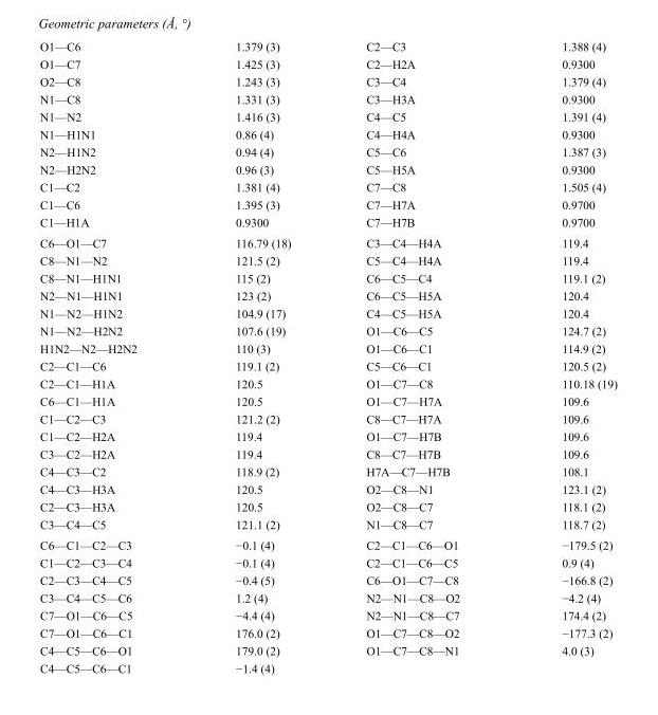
<table><tbody><tr><td>O1—C6</td><td>1.379 (3)</td><td>C2—C3</td><td>1.388 (4)</td></tr><tr><td>O1—C7</td><td>1.425 (3)</td><td>C2—H2A</td><td>0.9300</td></tr><tr><td>O2—C8</td><td>1.243 (3)</td><td>C3—C4</td><td>1.379 (4)</td></tr><tr><td>N1—C8</td><td>1.331 (3)</td><td>C3—H3A</td><td>0.9300</td></tr><tr><td>N1—N2</td><td>1.416 (3)</td><td>C4—C5</td><td>1.391 (4)</td></tr><tr><td>N1—H1N1</td><td>0.86 (4)</td><td>C4—H4A</td><td>0.9300</td></tr><tr><td>N2—H1N2</td><td>0.94 (4)</td><td>C5—C6</td><td>1.387 (3)</td></tr><tr><td>N2—H2N2</td><td>0.96 (3)</td><td>C5—H5A</td><td>0.9300</td></tr><tr><td>C1—C2</td><td>1.381 (4)</td><td>C7—C8</td><td>1.505 (4)</td></tr><tr><td>C1—C6</td><td>1.395 (3)</td><td>C7—H7A</td><td>0.9700</td></tr><tr><td>C1—H1A</td><td>0.9300</td><td>C7—H7B</td><td>0.9700</td></tr><tr><td>C6—O1—C7</td><td>116.79 (18)</td><td>C3—C4—H4A</td><td>119.4</td></tr><tr><td>C8—N1—N2</td><td>121.5 (2)</td><td>C5—C4—H4A</td><td>119.4</td></tr><tr><td>C8—N1—H1N1</td><td>115 (2)</td><td>C6—C5—C4</td><td>119.1 (2)</td></tr><tr><td>N2—N1—H1N1</td><td>123 (2)</td><td>C6—C5—H5A</td><td>120.4</td></tr><tr><td>N1—N2—H1N2</td><td>104.9 (17)</td><td>C4—C5—H5A</td><td>120.4</td></tr><tr><td>N1—N2—H2N2</td><td>107.6 (19)</td><td>O1—C6—C5</td><td>124.7 (2)</td></tr><tr><td>H1N2—N2—H2N2</td><td>110 (3)</td><td>O1—C6—C1</td><td>114.9 (2)</td></tr><tr><td>C2—C1—C6</td><td>119.1 (2)</td><td>C5—C6—C1</td><td>120.5 (2)</td></tr><tr><td>C2—C1—H1A</td><td>120.5</td><td>O1—C7—C8</td><td>110.18 (19)</td></tr><tr><td>C6—C1—H1A</td><td>120.5</td><td>O1—C7—H7A</td><td>109.6</td></tr><tr><td>C1—C2—C3</td><td>121.2 (2)</td><td>C8—C7—H7A</td><td>109.6</td></tr><tr><td>C1—C2—H2A</td><td>119.4</td><td>O1—C7—H7B</td><td>109.6</td></tr><tr><td>C3—C2—H2A</td><td>119.4</td><td>C8—C7—H7B</td><td>109.6</td></tr><tr><td>C4—C3—C2</td><td>118.9 (2)</td><td>H7A—C7—H7B</td><td>108.1</td></tr><tr><td>C4—C3—H3A</td><td>120.5</td><td>O2—C8—N1</td><td>123.1 (2)</td></tr><tr><td>C2—C3—H3A</td><td>120.5</td><td>O2—C8—C7</td><td>118.1 (2)</td></tr><tr><td>C3—C4—C5</td><td>121.1 (2)</td><td>N1—C8—C7</td><td>118.7 (2)</td></tr><tr><td>C6—C1—C2—C3</td><td>−0.1 (4)</td><td>C2—C1—C6—O1</td><td>−179.5 (2)</td></tr><tr><td>C1—C2—C3—C4</td><td>−0.1 (4)</td><td>C2—C1—C6—C5</td><td>0.9 (4)</td></tr><tr><td>C2—C3—C4—C5</td><td>−0.4 (5)</td><td>C6—O1—C7—C8</td><td>−166.8 (2)</td></tr><tr><td>C3—C4—C5—C6</td><td>1.2 (4)</td><td>N2—N1—C8—O2</td><td>−4.2 (4)</td></tr><tr><td>C7—O1—C6—C5</td><td>−4.4 (4)</td><td>N2—N1—C8—C7</td><td>174.4 (2)</td></tr><tr><td>C7—O1—C6—C1</td><td>176.0 (2)</td><td>O1—C7—C8—O2</td><td>−177.3 (2)</td></tr><tr><td>C4—C5—C6—O1</td><td>179.0 (2)</td><td>O1—C7—C8—N1</td><td>4.0 (3)</td></tr><tr><td>C4—C5—C6—C1</td><td>−1.4 (4)</td><td></td><td></td></tr></tbody></table>